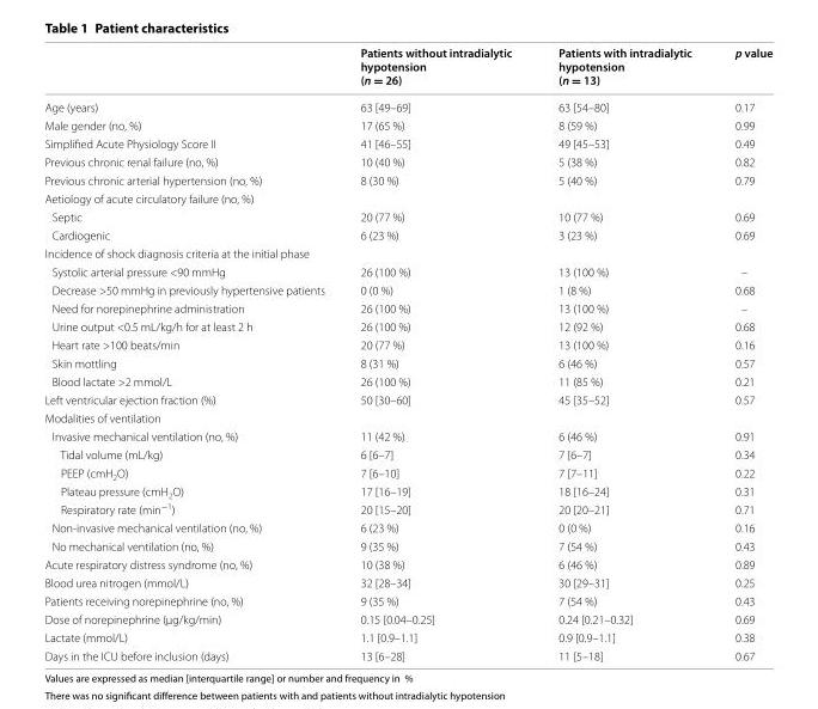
<table><thead><tr><td></td><td>Patients without intradialytic hypotension (n = 26)</td><td>Patients with intradialytic hypotension (n = 13)</td><td>p value</td></tr></thead><tbody><tr><td>Age (years)</td><td>63 [49–69]</td><td>63 [54–80]</td><td>0.17</td></tr><tr><td>Male gender (no, %)</td><td>17 (65 %)</td><td>8 (59 %)</td><td>0.99</td></tr><tr><td>Simplified Acute Physiology Score II</td><td>41 [46–55]</td><td>49 [45–53]</td><td>0.49</td></tr><tr><td>Previous chronic renal failure (no, %)</td><td>10 (40 %)</td><td>5 (38 %)</td><td>0.82</td></tr><tr><td>Previous chronic arterial hypertension (no, %)</td><td>8 (30 %)</td><td>5 (40 %)</td><td>0.79</td></tr><tr><td colspan="4">Aetiology of acute circulatory failure (no, %)</td></tr><tr><td>Septic</td><td>20 (77 %)</td><td>10 (77 %)</td><td>0.69</td></tr><tr><td>Cardiogenic</td><td>6 (23 %)</td><td>3 (23 %)</td><td>0.69</td></tr><tr><td colspan="4">Incidence of shock diagnosis criteria at the initial phase</td></tr><tr><td>Systolic arterial pressure &lt;90 mmHg</td><td>26 (100 %)</td><td>13 (100 %)</td><td>–</td></tr><tr><td>Decrease &gt;50 mmHg in previously hypertensive patients</td><td>0 (0 %)</td><td>1 (8 %)</td><td>0.68</td></tr><tr><td>Need for norepinephrine administration</td><td>26 (100 %)</td><td>13 (100 %)</td><td>–</td></tr><tr><td>Urine output &lt;0.5 mL/kg/h for at least 2 h</td><td>26 (100 %)</td><td>12 (92 %)</td><td>0.68</td></tr><tr><td>Heart rate &gt;100 beats/min</td><td>20 (77 %)</td><td>13 (100 %)</td><td>0.16</td></tr><tr><td>Skin mottling</td><td>8 (31 %)</td><td>6 (46 %)</td><td>0.57</td></tr><tr><td>Blood lactate &gt;2 mmol/L</td><td>26 (100 %)</td><td>11 (85 %)</td><td>0.21</td></tr><tr><td>Left ventricular ejection fraction (%)</td><td>50 [30–60]</td><td>45 [35–52]</td><td>0.57</td></tr><tr><td colspan="4">Modalities of ventilation</td></tr><tr><td>Invasive mechanical ventilation (no, %)</td><td>11 (42 %)</td><td>6 (46 %)</td><td>0.91</td></tr><tr><td>Tidal volume (mL/kg)</td><td>6 [6–7]</td><td>7 [6–7]</td><td>0.34</td></tr><tr><td>PEEP (cmH<sub>2</sub>O)</td><td>7 [6–10]</td><td>7 [7–11]</td><td>0.22</td></tr><tr><td>Plateau pressure (cmH<sub>2</sub>O)</td><td>17 [16–19]</td><td>18 [16–24]</td><td>0.31</td></tr><tr><td>Respiratory rate (min<sup>−1</sup>)</td><td>20 [15–20]</td><td>20 [20–21]</td><td>0.71</td></tr><tr><td>Non‑invasive mechanical ventilation (no, %)</td><td>6 (23 %)</td><td>0 (0 %)</td><td>0.16</td></tr><tr><td>No mechanical ventilation (no, %)</td><td>9 (35 %)</td><td>7 (54 %)</td><td>0.43</td></tr><tr><td>Acute respiratory distress syndrome (no, %)</td><td>10 (38 %)</td><td>6 (46 %)</td><td>0.89</td></tr><tr><td>Blood urea nitrogen (mmol/L)</td><td>32 [28–34]</td><td>30 [29–31]</td><td>0.25</td></tr><tr><td>Patients receiving norepinephrine (no, %)</td><td>9 (35 %)</td><td>7 (54 %)</td><td>0.43</td></tr><tr><td>Dose of norepinephrine (µg/kg/min)</td><td>0.15 [0.04–0.25]</td><td>0.24 [0.21–0.32]</td><td>0.69</td></tr><tr><td>Lactate (mmol/L)</td><td>1.1 [0.9–1.1]</td><td>0.9 [0.9–1.1]</td><td>0.38</td></tr><tr><td>Days in the ICU before inclusion (days)</td><td>13 [6–28]</td><td>11 [5–18]</td><td>0.67</td></tr></tbody></table>